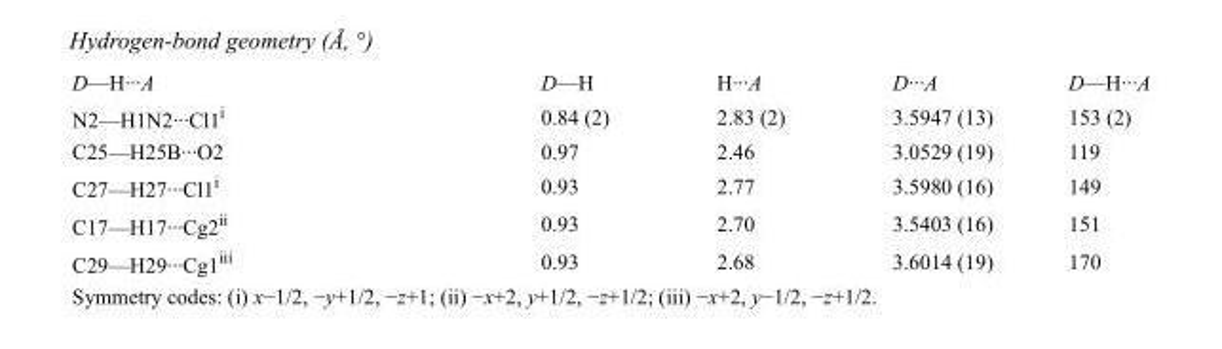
<table><tbody><tr><td>D—H···A</td><td>D—H</td><td>H···A</td><td>D···A</td><td>D—H···A</td></tr><tr><td>N2—H1N2···Cl1<sup>i</sup></td><td>0.84 (2)</td><td>2.83 (2)</td><td>3.5947 (13)</td><td>153 (2)</td></tr><tr><td>C25—H25B···O2</td><td>0.97</td><td>2.46</td><td>3.0529 (19)</td><td>119</td></tr><tr><td>C27—H27···Cl1<sup>i</sup></td><td>0.93</td><td>2.77</td><td>3.5980 (16)</td><td>149</td></tr><tr><td>C17—H17···Cg2<sup>ii</sup></td><td>0.93</td><td>2.70</td><td>3.5403 (16)</td><td>151</td></tr><tr><td>C29—H29···Cg1<sup>iii</sup></td><td>0.93</td><td>2.68</td><td>3.6014 (19)</td><td>170</td></tr></tbody></table>